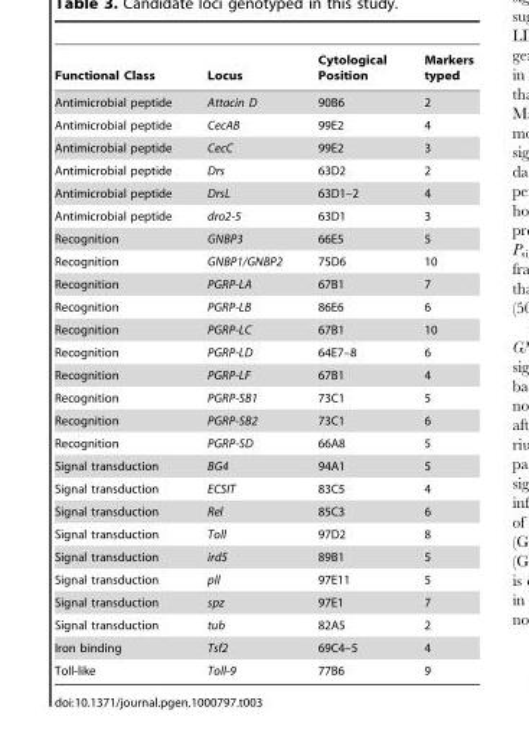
<table><thead><tr><td>Functional Class</td><td>Locus</td><td>Cytological Position</td><td>Markers typed</td></tr></thead><tbody><tr><td>Antimicrobial peptide</td><td>Attacin D</td><td>90B6</td><td>2</td></tr><tr><td>Antimicrobial peptide</td><td>CecAB</td><td>99E2</td><td>4</td></tr><tr><td>Antimicrobial peptide</td><td>CecC</td><td>99E2</td><td>3</td></tr><tr><td>Antimicrobial peptide</td><td>Drs</td><td>63D2</td><td>2</td></tr><tr><td>Antimicrobial peptide</td><td>DrsL</td><td>63D1–2</td><td>4</td></tr><tr><td>Antimicrobial peptide</td><td>dro2-5</td><td>63D1</td><td>3</td></tr><tr><td>Recognition</td><td>GNBP3</td><td>66E5</td><td>5</td></tr><tr><td>Recognition</td><td>GNBP1/GNBP2</td><td>75D6</td><td>10</td></tr><tr><td>Recognition</td><td>PGRP-LA</td><td>67B1</td><td>7</td></tr><tr><td>Recognition</td><td>PGRP-LB</td><td>86E6</td><td>6</td></tr><tr><td>Recognition</td><td>PGRP-LC</td><td>67B1</td><td>10</td></tr><tr><td>Recognition</td><td>PGRP-LD</td><td>64E7–8</td><td>6</td></tr><tr><td>Recognition</td><td>PGRP-LF</td><td>67B1</td><td>4</td></tr><tr><td>Recognition</td><td>PGRP-SB1</td><td>73C1</td><td>5</td></tr><tr><td>Recognition</td><td>PGRP-SB2</td><td>73C1</td><td>6</td></tr><tr><td>Recognition</td><td>PGRP-SD</td><td>66A8</td><td>5</td></tr><tr><td>Signal transduction</td><td>BG4</td><td>94A1</td><td>5</td></tr><tr><td>Signal transduction</td><td>ECSIT</td><td>83C5</td><td>4</td></tr><tr><td>Signal transduction</td><td>Rel</td><td>85C3</td><td>6</td></tr><tr><td>Signal transduction</td><td>Toll</td><td>97D2</td><td>8</td></tr><tr><td>Signal transduction</td><td>ird5</td><td>89B1</td><td>5</td></tr><tr><td>Signal transduction</td><td>pll</td><td>97E11</td><td>5</td></tr><tr><td>Signal transduction</td><td>spz</td><td>97E1</td><td>7</td></tr><tr><td>Signal transduction</td><td>tub</td><td>82A5</td><td>2</td></tr><tr><td>Iron binding</td><td>Tsf2</td><td>69C4–5</td><td>4</td></tr><tr><td>Toll-like</td><td>Toll-9</td><td>77B6</td><td>9</td></tr></tbody></table>